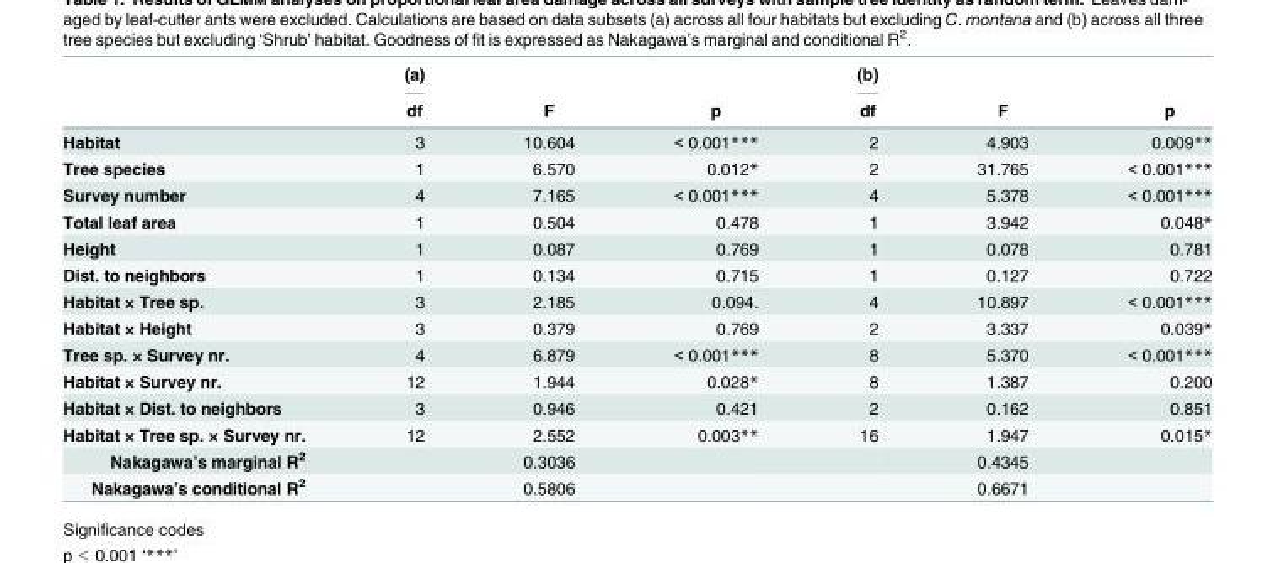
<table><thead><tr><td rowspan="2"></td><td rowspan="2">(a) df</td><td rowspan="2">F</td><td rowspan="2">p</td><td rowspan="2">(b) df</td><td rowspan="2">F</td><td rowspan="2">p</td></tr><tr></tr></thead><tbody><tr><td>Habitat</td><td>3</td><td>10.604</td><td>&lt; 0.001***</td><td>2</td><td>4.903</td><td>0.009**</td></tr><tr><td>Tree species</td><td>1</td><td>6.570</td><td>0.012*</td><td>2</td><td>31.765</td><td>&lt; 0.001***</td></tr><tr><td>Survey number</td><td>4</td><td>7.165</td><td>&lt; 0.001***</td><td>4</td><td>5.378</td><td>&lt; 0.001***</td></tr><tr><td>Total leaf area</td><td>1</td><td>0.504</td><td>0.478</td><td>1</td><td>3.942</td><td>0.048*</td></tr><tr><td>Height</td><td>1</td><td>0.087</td><td>0.769</td><td>1</td><td>0.078</td><td>0.781</td></tr><tr><td>Dist. to neighbors</td><td>1</td><td>0.134</td><td>0.715</td><td>1</td><td>0.127</td><td>0.722</td></tr><tr><td>Habitat × Tree sp.</td><td>3</td><td>2.185</td><td>0.094.</td><td>4</td><td>10.897</td><td>&lt; 0.001***</td></tr><tr><td>Habitat × Height</td><td>3</td><td>0.379</td><td>0.769</td><td>2</td><td>3.337</td><td>0.039*</td></tr><tr><td>Tree sp. × Survey nr.</td><td>4</td><td>6.879</td><td>&lt; 0.001***</td><td>8</td><td>5.370</td><td>&lt; 0.001***</td></tr><tr><td>Habitat × Survey nr.</td><td>12</td><td>1.944</td><td>0.028*</td><td>8</td><td>1.387</td><td>0.200</td></tr><tr><td>Habitat × Dist. to neighbors</td><td>3</td><td>0.946</td><td>0.421</td><td>2</td><td>0.162</td><td>0.851</td></tr><tr><td>Habitat × Tree sp. × Survey nr.</td><td>12</td><td>2.552</td><td>0.003**</td><td>16</td><td>1.947</td><td>0.015*</td></tr><tr><td>Nakagawa’s marginal R<sup>2</sup></td><td></td><td>0.3036</td><td></td><td></td><td>0.4345</td><td></td></tr><tr><td>Nakagawa’s conditional R<sup>2</sup></td><td></td><td>0.5806</td><td></td><td></td><td>0.6671</td><td></td></tr></tbody></table>